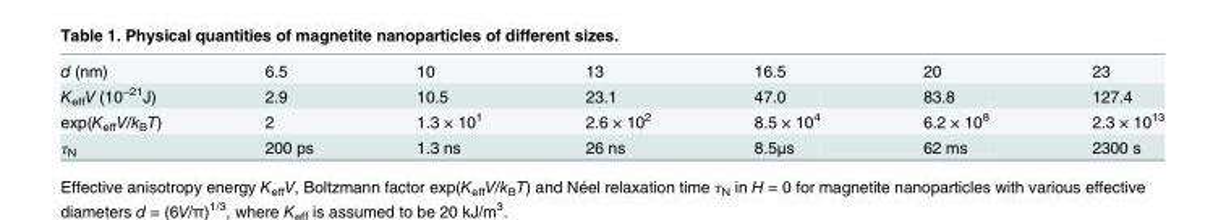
<table><tbody><tr><td>d (nm)</td><td>6.5</td><td>10</td><td>13</td><td>16.5</td><td>20</td><td>23</td></tr><tr><td>K<sub>eff</sub>V (10<sup>–21</sup>J)</td><td>2.9</td><td>10.5</td><td>23.1</td><td>47.0</td><td>83.8</td><td>127.4</td></tr><tr><td>exp(K<sub>eff</sub>V/k<sub>B</sub>T)</td><td>2</td><td>1.3 × 10<sup>1</sup></td><td>2.6 × 10<sup>2</sup></td><td>8.5 × 10<sup>4</sup></td><td>6.2 × 10<sup>8</sup></td><td>2.3 × 10<sup>13</sup></td></tr><tr><td>τ<sub>N</sub></td><td>200 ps</td><td>1.3 ns</td><td>26 ns</td><td>8.5μs</td><td>62 ms</td><td>2300 s</td></tr></tbody></table>